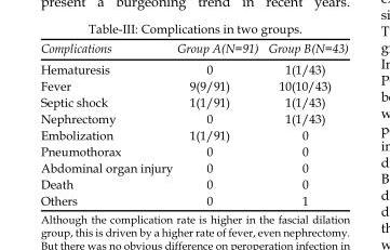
<table><thead><tr><td>Complications</td><td>Group A(N=91)</td><td>Group B(N=43)</td></tr></thead><tbody><tr><td>Hematuresis</td><td>0</td><td>1(1/43)</td></tr><tr><td>Fever</td><td>9(9/91)</td><td>10(10/43)</td></tr><tr><td>Septic shock</td><td>1(1/91)</td><td>1(1/43)</td></tr><tr><td>Nephrectomy</td><td>0</td><td>1(1/43)</td></tr><tr><td>Embolization</td><td>1(1/91)</td><td>0</td></tr><tr><td>Pneumothorax</td><td>0</td><td>0</td></tr><tr><td>Abdominal organ injury</td><td>0</td><td>0</td></tr><tr><td>Death</td><td>0</td><td>0</td></tr><tr><td>Others</td><td>0</td><td>1</td></tr></tbody></table>